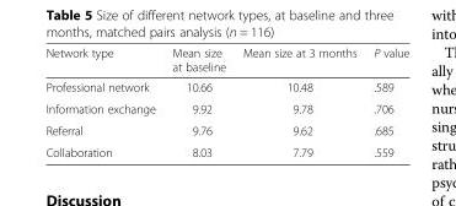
<table><thead><tr><td>Network type</td><td>Mean size at baseline</td><td>Mean size at 3 months</td><td>P value</td></tr></thead><tbody><tr><td>Professional network</td><td>10.66</td><td>10.48</td><td>.589</td></tr><tr><td>Information exchange</td><td>9.92</td><td>9.78</td><td>.706</td></tr><tr><td>Referral</td><td>9.76</td><td>9.62</td><td>.685</td></tr><tr><td>Collaboration</td><td>8.03</td><td>7.79</td><td>.559</td></tr></tbody></table>